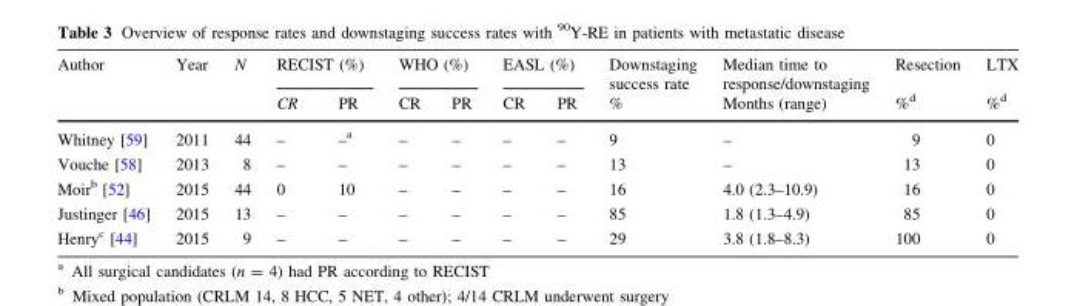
<table><thead><tr><td rowspan="2">Author</td><td rowspan="2">Year</td><td rowspan="2">N</td><td colspan="2">RECIST (%)</td><td colspan="2">WHO (%)</td><td colspan="2">EASL (%)</td><td rowspan="2">Downstaging success rate %</td><td rowspan="2">Median time to response/downstaging Months (range)</td><td rowspan="2">Resection %<sup>d</sup></td><td rowspan="2">LTX %<sup>d</sup></td></tr><tr><td>CR</td><td>PR</td><td>CR</td><td>PR</td><td>CR</td><td>PR</td></tr></thead><tbody><tr><td>Whitney [59]</td><td>2011</td><td>44</td><td>–</td><td>–<sup>a</sup></td><td>–</td><td>–</td><td>–</td><td>–</td><td>9</td><td>–</td><td>9</td><td>0</td></tr><tr><td>Vouche [58]</td><td>2013</td><td>8</td><td>–</td><td>–</td><td>–</td><td>–</td><td>–</td><td>–</td><td>13</td><td>–</td><td>13</td><td>0</td></tr><tr><td>Moir<sup>b</sup> [52]</td><td>2015</td><td>44</td><td>0</td><td>10</td><td>–</td><td>–</td><td>–</td><td>–</td><td>16</td><td>4.0 (2.3–10.9)</td><td>16</td><td>0</td></tr><tr><td>Justinger [46]</td><td>2015</td><td>13</td><td>–</td><td>–</td><td>–</td><td>–</td><td>–</td><td>–</td><td>85</td><td>1.8 (1.3–4.9)</td><td>85</td><td>0</td></tr><tr><td>Henry<sup>c</sup> [44]</td><td>2015</td><td>9</td><td>–</td><td>–</td><td>–</td><td>–</td><td>–</td><td>–</td><td>29</td><td>3.8 (1.8–8.3)</td><td>100</td><td>0</td></tr></tbody></table>